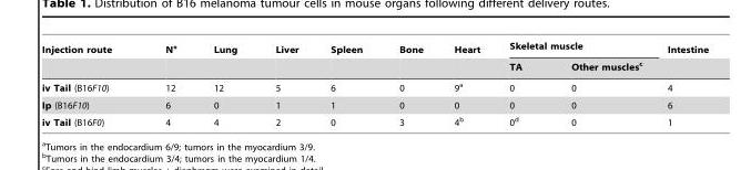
<table><thead><tr><td rowspan="2">Injection route</td><td rowspan="2">N°</td><td rowspan="2">Lung</td><td rowspan="2">Liver</td><td rowspan="2">Spleen</td><td rowspan="2">Bone</td><td rowspan="2">Heart</td><td colspan="2">Skeletal muscle</td><td rowspan="2">Intestine</td></tr><tr><td>TA</td><td>Other muscles<sup>c</sup></td></tr></thead><tbody><tr><td>iv Tail (B16F10)</td><td>12</td><td>12</td><td>5</td><td>6</td><td>0</td><td>9<sup>a</sup></td><td>0</td><td>0</td><td>4</td></tr><tr><td>Ip (B16F10)</td><td>6</td><td>0</td><td>1</td><td>1</td><td>0</td><td>0</td><td>0</td><td>0</td><td>6</td></tr><tr><td>iv Tail (B16F0)</td><td>4</td><td>4</td><td>2</td><td>0</td><td>3</td><td>4<sup>b</sup></td><td>0<sup>d</sup></td><td>0</td><td>1</td></tr></tbody></table>